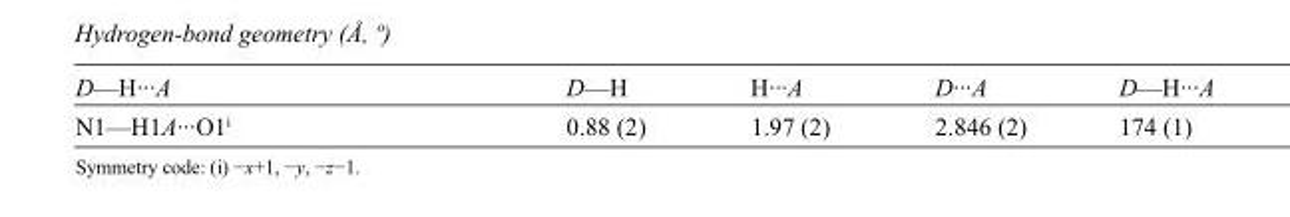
<table><tbody><tr><td>D—H···A</td><td>D—H</td><td>H···A</td><td>D···A</td><td>D—H···A</td></tr><tr><td>N1—H1A···O1<sup>i</sup></td><td>0.88 (2)</td><td>1.97 (2)</td><td>2.846 (2)</td><td>174 (1)</td></tr></tbody></table>